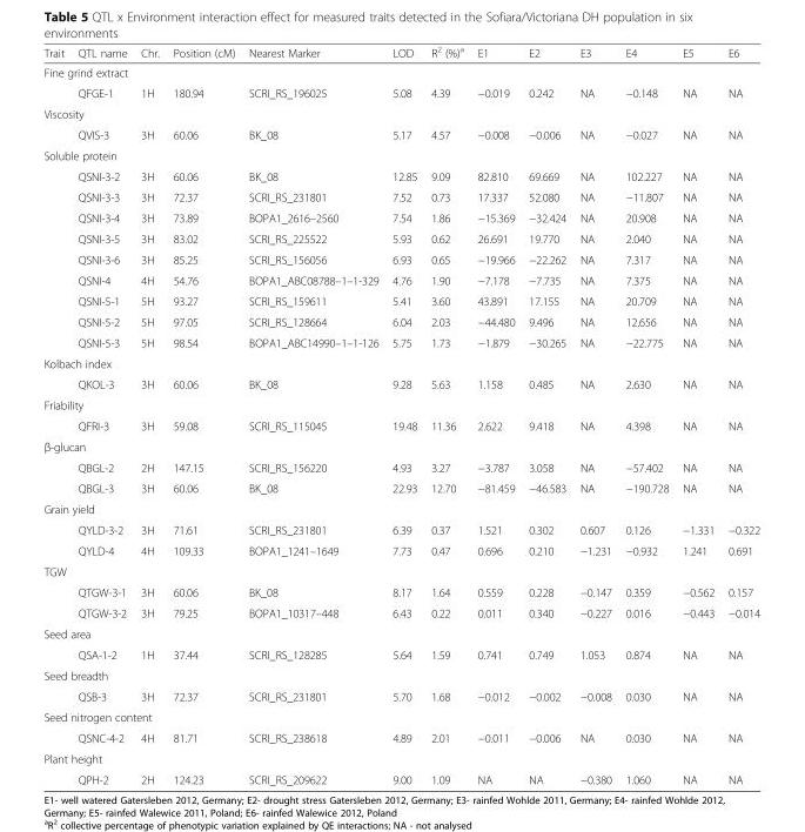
<table><thead><tr><td>Trait</td><td>QTL name</td><td>Chr.</td><td>Position (cM)</td><td>Nearest Marker</td><td>LOD</td><td>R<sup>2</sup> (%)<sup>a</sup></td><td>E1</td><td>E2</td><td>E3</td><td>E4</td><td>E5</td><td>E6</td></tr></thead><tbody><tr><td colspan="13">Fine grind extract</td></tr><tr><td></td><td>QFGE-1</td><td>1H</td><td>180.94</td><td>SCRI_RS_196025</td><td>5.08</td><td>4.39</td><td>−0.019</td><td>0.242</td><td>NA</td><td>−0.148</td><td>NA</td><td>NA</td></tr><tr><td colspan="13">Viscosity</td></tr><tr><td></td><td>QVIS-3</td><td>3H</td><td>60.06</td><td>BK_08</td><td>5.17</td><td>4.57</td><td>−0.008</td><td>−0.006</td><td>NA</td><td>−0.027</td><td>NA</td><td>NA</td></tr><tr><td colspan="13">Soluble protein</td></tr><tr><td></td><td>QSNI-3-2</td><td>3H</td><td>60.06</td><td>BK_08</td><td>12.85</td><td>9.09</td><td>82.810</td><td>69.669</td><td>NA</td><td>102.227</td><td>NA</td><td>NA</td></tr><tr><td></td><td>QSNI-3-3</td><td>3H</td><td>72.37</td><td>SCRI_RS_231801</td><td>7.52</td><td>0.73</td><td>17.337</td><td>52.080</td><td>NA</td><td>−11.807</td><td>NA</td><td>NA</td></tr><tr><td></td><td>QSNI-3-4</td><td>3H</td><td>73.89</td><td>BOPA1_2616–2560</td><td>7.54</td><td>1.86</td><td>−15.369</td><td>−32.424</td><td>NA</td><td>20.908</td><td>NA</td><td>NA</td></tr><tr><td></td><td>QSNI-3-5</td><td>3H</td><td>83.02</td><td>SCRI_RS_225522</td><td>5.93</td><td>0.62</td><td>26.691</td><td>19.770</td><td>NA</td><td>2.040</td><td>NA</td><td>NA</td></tr><tr><td></td><td>QSNI-3-6</td><td>3H</td><td>85.25</td><td>SCRI_RS_156056</td><td>6.93</td><td>0.65</td><td>−19.966</td><td>−22.262</td><td>NA</td><td>7.317</td><td>NA</td><td>NA</td></tr><tr><td></td><td>QSNI-4</td><td>4H</td><td>54.76</td><td>BOPA1_ABC08788–1–1-329</td><td>4.76</td><td>1.90</td><td>−7.178</td><td>−7.735</td><td>NA</td><td>7.375</td><td>NA</td><td>NA</td></tr><tr><td></td><td>QSNI-5-1</td><td>5H</td><td>93.27</td><td>SCRI_RS_159611</td><td>5.41</td><td>3.60</td><td>43.891</td><td>17.155</td><td>NA</td><td>20.709</td><td>NA</td><td>NA</td></tr><tr><td></td><td>QSNI-5-2</td><td>5H</td><td>97.05</td><td>SCRI_RS_128664</td><td>6.04</td><td>2.03</td><td>−44.480</td><td>9.496</td><td>NA</td><td>12.656</td><td>NA</td><td>NA</td></tr><tr><td></td><td>QSNI-5-3</td><td>5H</td><td>98.54</td><td>BOPA1_ABC14990–1–1-126</td><td>5.75</td><td>1.73</td><td>−1.879</td><td>−30.265</td><td>NA</td><td>−22.775</td><td>NA</td><td>NA</td></tr><tr><td colspan="13">Kolbach index</td></tr><tr><td></td><td>QKOL-3</td><td>3H</td><td>60.06</td><td>BK_08</td><td>9.28</td><td>5.63</td><td>1.158</td><td>0.485</td><td>NA</td><td>2.630</td><td>NA</td><td>NA</td></tr><tr><td colspan="13">Friability</td></tr><tr><td></td><td>QFRI-3</td><td>3H</td><td>59.08</td><td>SCRI_RS_115045</td><td>19.48</td><td>11.36</td><td>2.622</td><td>9.418</td><td>NA</td><td>4.398</td><td>NA</td><td>NA</td></tr><tr><td colspan="13">β-glucan</td></tr><tr><td></td><td>QBGL-2</td><td>2H</td><td>147.15</td><td>SCRI_RS_156220</td><td>4.93</td><td>3.27</td><td>−3.787</td><td>3.058</td><td>NA</td><td>−57.402</td><td>NA</td><td>NA</td></tr><tr><td></td><td>QBGL-3</td><td>3H</td><td>60.06</td><td>BK_08</td><td>22.93</td><td>12.70</td><td>−81.459</td><td>−46.583</td><td>NA</td><td>−190.728</td><td>NA</td><td>NA</td></tr><tr><td colspan="13">Grain yield</td></tr><tr><td></td><td>QYLD-3-2</td><td>3H</td><td>71.61</td><td>SCRI_RS_231801</td><td>6.39</td><td>0.37</td><td>1.521</td><td>0.302</td><td>0.607</td><td>0.126</td><td>−1.331</td><td>−0.322</td></tr><tr><td></td><td>QYLD-4</td><td>4H</td><td>109.33</td><td>BOPA1_1241–1649</td><td>7.73</td><td>0.47</td><td>0.696</td><td>0.210</td><td>−1.231</td><td>−0.932</td><td>1.241</td><td>0.691</td></tr><tr><td colspan="13">TGW</td></tr><tr><td></td><td>QTGW-3-1</td><td>3H</td><td>60.06</td><td>BK_08</td><td>8.17</td><td>1.64</td><td>0.559</td><td>0.228</td><td>−0.147</td><td>0.359</td><td>−0.562</td><td>0.157</td></tr><tr><td></td><td>QTGW-3-2</td><td>3H</td><td>79.25</td><td>BOPA1_10317–448</td><td>6.43</td><td>0.22</td><td>0.011</td><td>0.340</td><td>−0.227</td><td>0.016</td><td>−0.443</td><td>−0.014</td></tr><tr><td colspan="13">Seed area</td></tr><tr><td></td><td>QSA-1-2</td><td>1H</td><td>37.44</td><td>SCRI_RS_128285</td><td>5.64</td><td>1.59</td><td>0.741</td><td>0.749</td><td>1.053</td><td>0.874</td><td>NA</td><td>NA</td></tr><tr><td colspan="13">Seed breadth</td></tr><tr><td></td><td>QSB-3</td><td>3H</td><td>72.37</td><td>SCRI_RS_231801</td><td>5.70</td><td>1.68</td><td>−0.012</td><td>−0.002</td><td>−0.008</td><td>0.030</td><td>NA</td><td>NA</td></tr><tr><td colspan="13">Seed nitrogen content</td></tr><tr><td></td><td>QSNC-4-2</td><td>4H</td><td>81.71</td><td>SCRI_RS_238618</td><td>4.89</td><td>2.01</td><td>−0.011</td><td>−0.006</td><td>NA</td><td>0.030</td><td>NA</td><td>NA</td></tr><tr><td colspan="13">Plant height</td></tr><tr><td></td><td>QPH-2</td><td>2H</td><td>124.23</td><td>SCRI_RS_209622</td><td>9.00</td><td>1.09</td><td>NA</td><td>NA</td><td>−0.380</td><td>1.060</td><td>NA</td><td>NA</td></tr></tbody></table>